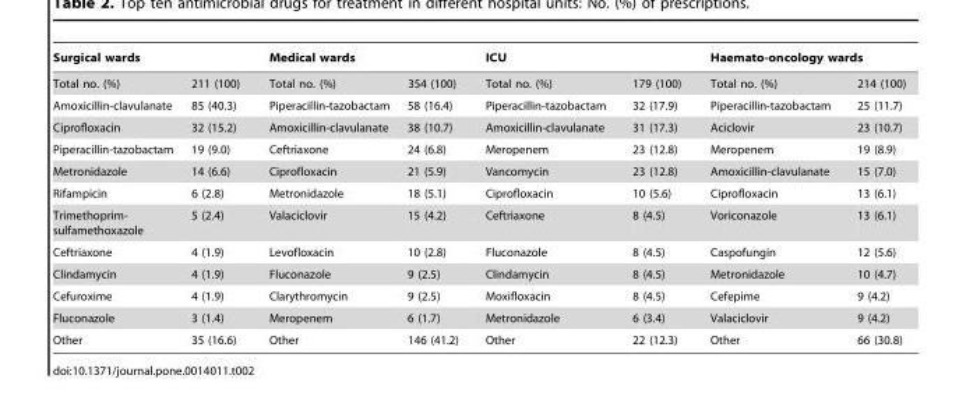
<table><thead><tr><td colspan="2">Surgical wards</td><td colspan="2">Medical wards</td><td colspan="2">ICU</td><td colspan="2">Haemato-oncology wards</td></tr><tr><td>Total no. (%)</td><td>211 (100)</td><td>Total no. (%)</td><td>354 (100)</td><td>Total no. (%)</td><td>179 (100)</td><td>Total no. (%)</td><td>214 (100)</td></tr></thead><tbody><tr><td>Amoxicillin-clavulanate</td><td>85 (40.3)</td><td>Piperacillin-tazobactam</td><td>58 (16.4)</td><td>Piperacillin-tazobactam</td><td>32 (17.9)</td><td>Piperacillin-tazobactam</td><td>25 (11.7)</td></tr><tr><td>Ciprofloxacin</td><td>32 (15.2)</td><td>Amoxicillin-clavulanate</td><td>38 (10.7)</td><td>Amoxicillin-clavulanate</td><td>31 (17.3)</td><td>Aciclovir</td><td>23 (10.7)</td></tr><tr><td>Piperacillin-tazobactam</td><td>19 (9.0)</td><td>Ceftriaxone</td><td>24 (6.8)</td><td>Meropenem</td><td>23 (12.8)</td><td>Meropenem</td><td>19 (8.9)</td></tr><tr><td>Metronidazole</td><td>14 (6.6)</td><td>Ciprofloxacin</td><td>21 (5.9)</td><td>Vancomycin</td><td>23 (12.8)</td><td>Amoxicillin-clavulanate</td><td>15 (7.0)</td></tr><tr><td>Rifampicin</td><td>6 (2.8)</td><td>Metronidazole</td><td>18 (5.1)</td><td>Ciprofloxacin</td><td>10 (5.6)</td><td>Ciprofloxacin</td><td>13 (6.1)</td></tr><tr><td>Trimethoprim- sulfamethoxazole</td><td>5 (2.4)</td><td>Valaciclovir</td><td>15 (4.2)</td><td>Ceftriaxone</td><td>8 (4.5)</td><td>Voriconazole</td><td>13 (6.1)</td></tr><tr><td>Ceftriaxone</td><td>4 (1.9)</td><td>Levofloxacin</td><td>10 (2.8)</td><td>Fluconazole</td><td>8 (4.5)</td><td>Caspofungin</td><td>12 (5.6)</td></tr><tr><td>Clindamycin</td><td>4 (1.9)</td><td>Fluconazole</td><td>9 (2.5)</td><td>Clindamycin</td><td>8 (4.5)</td><td>Metronidazole</td><td>10 (4.7)</td></tr><tr><td>Cefuroxime</td><td>4 (1.9)</td><td>Clarythromycin</td><td>9 (2.5)</td><td>Moxifloxacin</td><td>8 (4.5)</td><td>Cefepime</td><td>9 (4.2)</td></tr><tr><td>Fluconazole</td><td>3 (1.4)</td><td>Meropenem</td><td>6 (1.7)</td><td>Metronidazole</td><td>6 (3.4)</td><td>Valaciclovir</td><td>9 (4.2)</td></tr><tr><td>Other</td><td>35 (16.6)</td><td>Other</td><td>146 (41.2)</td><td>Other</td><td>22 (12.3)</td><td>Other</td><td>66 (30.8)</td></tr></tbody></table>